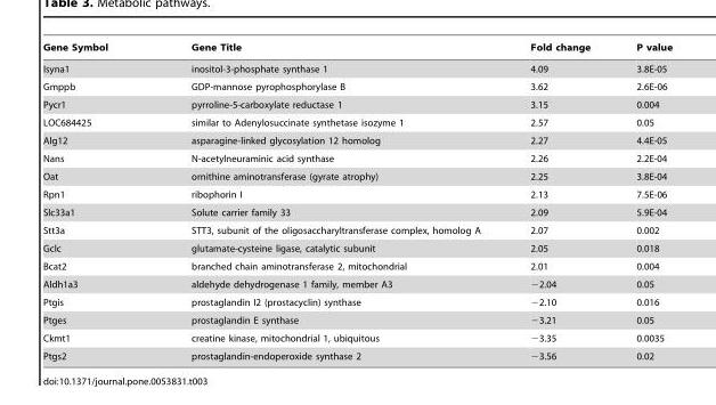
<table><thead><tr><td>Gene Symbol</td><td>Gene Title</td><td>Fold change</td><td>P value</td></tr></thead><tbody><tr><td>Isyna1</td><td>inositol-3-phosphate synthase 1</td><td>4.09</td><td>3.8E-05</td></tr><tr><td>Gmppb</td><td>GDP-mannose pyrophosphorylase B</td><td>3.62</td><td>2.6E-06</td></tr><tr><td>Pycr1</td><td>pyrroline-5-carboxylate reductase 1</td><td>3.15</td><td>0.004</td></tr><tr><td>LOC684425</td><td>similar to Adenylosuccinate synthetase isozyme 1</td><td>2.57</td><td>0.05</td></tr><tr><td>Alg12</td><td>asparagine-linked glycosylation 12 homolog</td><td>2.27</td><td>4.4E-05</td></tr><tr><td>Nans</td><td>N-acetylneuraminic acid synthase</td><td>2.26</td><td>2.2E-04</td></tr><tr><td>Oat</td><td>ornithine aminotransferase (gyrate atrophy)</td><td>2.25</td><td>3.8E-04</td></tr><tr><td>Rpn1</td><td>ribophorin I</td><td>2.13</td><td>7.5E-06</td></tr><tr><td>Slc33a1</td><td>Solute carrier family 33</td><td>2.09</td><td>5.9E-04</td></tr><tr><td>Stt3a</td><td>STT3, subunit of the oligosaccharyltransferase complex, homolog A</td><td>2.07</td><td>0.002</td></tr><tr><td>Gclc</td><td>glutamate-cysteine ligase, catalytic subunit</td><td>2.05</td><td>0.018</td></tr><tr><td>Bcat2</td><td>branched chain aminotransferase 2, mitochondrial</td><td>2.01</td><td>0.004</td></tr><tr><td>Aldh1a3</td><td>aldehyde dehydrogenase 1 family, member A3</td><td>−2.04</td><td>0.05</td></tr><tr><td>Ptgis</td><td>prostaglandin I2 (prostacyclin) synthase</td><td>−2.10</td><td>0.016</td></tr><tr><td>Ptges</td><td>prostaglandin E synthase</td><td>−3.21</td><td>0.05</td></tr><tr><td>Ckmt1</td><td>creatine kinase, mitochondrial 1, ubiquitous</td><td>−3.35</td><td>0.0035</td></tr><tr><td>Ptgs2</td><td>prostaglandin-endoperoxide synthase 2</td><td>−3.56</td><td>0.02</td></tr></tbody></table>